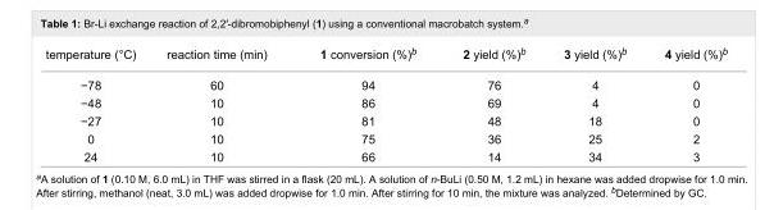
<table><tbody><tr><td>temperature (°C)</td><td>reaction time (min)</td><td>1 conversion (%)<sup>b</sup></td><td>2 yield (%)<sup>b</sup></td><td>3 yield (%)<sup>b</sup></td><td>4 yield (%)<sup>b</sup></td></tr><tr><td>−78</td><td>60</td><td>94</td><td>76</td><td>4</td><td>0</td></tr><tr><td>−48</td><td>10</td><td>86</td><td>69</td><td>4</td><td>0</td></tr><tr><td>−27</td><td>10</td><td>81</td><td>48</td><td>18</td><td>0</td></tr><tr><td>0</td><td>10</td><td>75</td><td>36</td><td>25</td><td>2</td></tr><tr><td>24</td><td>10</td><td>66</td><td>14</td><td>34</td><td>3</td></tr></tbody></table>